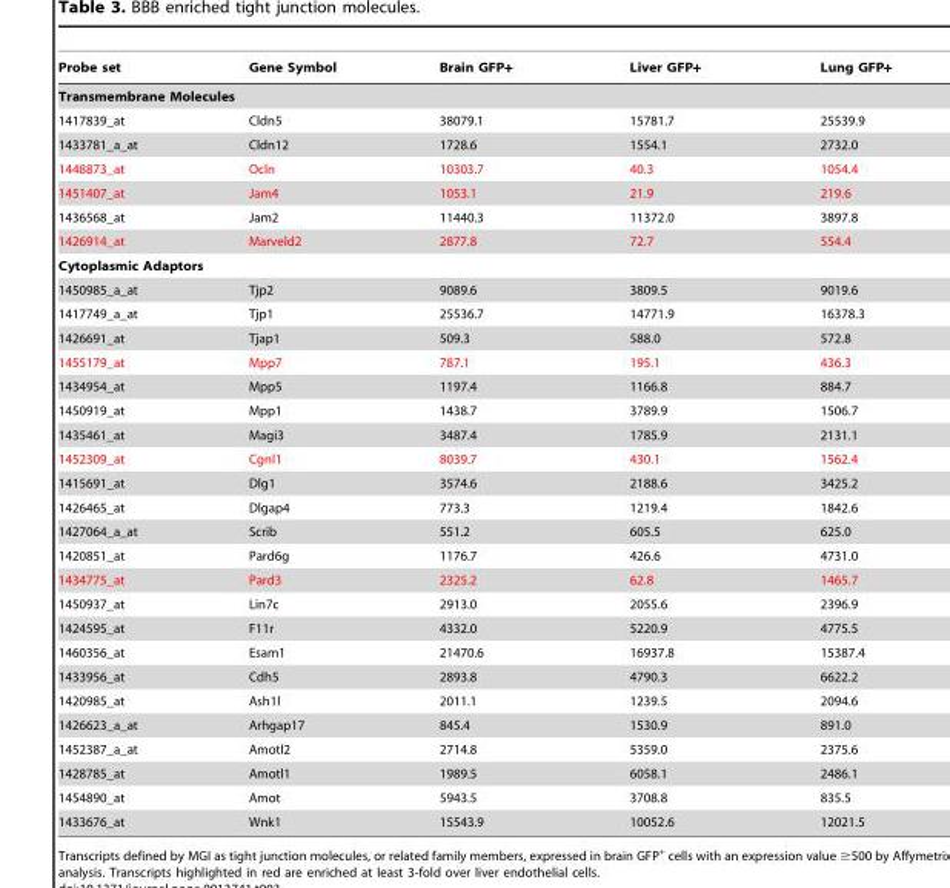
<table><thead><tr><td>Probe set</td><td>Gene Symbol</td><td>Brain GFP+</td><td>Liver GFP+</td><td>Lung GFP+</td></tr></thead><tbody><tr><td colspan="5">Transmembrane Molecules</td></tr><tr><td>1417839_at</td><td>Cldn5</td><td>38079.1</td><td>15781.7</td><td>25539.9</td></tr><tr><td>1433781_a_at</td><td>Cldn12</td><td>1728.6</td><td>1554.1</td><td>2732.0</td></tr><tr><td>1448873_at</td><td>Ocln</td><td>10303.7</td><td>40.3</td><td>1054.4</td></tr><tr><td>1451407_at</td><td>Jam4</td><td>1053.1</td><td>21.9</td><td>219.6</td></tr><tr><td>1436568_at</td><td>Jam2</td><td>11440.3</td><td>11372.0</td><td>3897.8</td></tr><tr><td>1426914_at</td><td>Marveld2</td><td>2877.8</td><td>72.7</td><td>554.4</td></tr><tr><td colspan="5">Cytoplasmic Adaptors</td></tr><tr><td>1450985_a_at</td><td>Tjp2</td><td>9089.6</td><td>3809.5</td><td>9019.6</td></tr><tr><td>1417749_a_at</td><td>Tjp1</td><td>25536.7</td><td>14771.9</td><td>16378.3</td></tr><tr><td>1426691_at</td><td>Tjap1</td><td>509.3</td><td>588.0</td><td>572.8</td></tr><tr><td>1455179_at</td><td>Mpp7</td><td>787.1</td><td>195.1</td><td>436.3</td></tr><tr><td>1434954_at</td><td>Mpp5</td><td>1197.4</td><td>1166.8</td><td>884.7</td></tr><tr><td>1450919_at</td><td>Mpp1</td><td>1438.7</td><td>3789.9</td><td>1506.7</td></tr><tr><td>1435461_at</td><td>Magi3</td><td>3487.4</td><td>1785.9</td><td>2131.1</td></tr><tr><td>1452309_at</td><td>Cgnl1</td><td>8039.7</td><td>430.1</td><td>1562.4</td></tr><tr><td>1415691_at</td><td>Dlg1</td><td>3574.6</td><td>2188.6</td><td>3425.2</td></tr><tr><td>1426465_at</td><td>Dlgap4</td><td>773.3</td><td>1219.4</td><td>1842.6</td></tr><tr><td>1427064_a_at</td><td>Scrib</td><td>551.2</td><td>605.5</td><td>625.0</td></tr><tr><td>1420851_at</td><td>Pard6g</td><td>1176.7</td><td>426.6</td><td>4731.0</td></tr><tr><td>1434775_at</td><td>Pard3</td><td>2325.2</td><td>62.8</td><td>1465.7</td></tr><tr><td>1450937_at</td><td>Lin7c</td><td>2913.0</td><td>2055.6</td><td>2396.9</td></tr><tr><td>1424595_at</td><td>F11r</td><td>4332.0</td><td>5220.9</td><td>4775.5</td></tr><tr><td>1460356_at</td><td>Esam1</td><td>21470.6</td><td>16937.8</td><td>15387.4</td></tr><tr><td>1433956_at</td><td>Cdh5</td><td>2893.8</td><td>4790.3</td><td>6622.2</td></tr><tr><td>1420985_at</td><td>Ash1l</td><td>2011.1</td><td>1239.5</td><td>2094.6</td></tr><tr><td>1426623_a_at</td><td>Arhgap17</td><td>845.4</td><td>1530.9</td><td>891.0</td></tr><tr><td>1452387_a_at</td><td>Amotl2</td><td>2714.8</td><td>5359.0</td><td>2375.6</td></tr><tr><td>1428785_at</td><td>Amotl1</td><td>1989.5</td><td>6058.1</td><td>2486.1</td></tr><tr><td>1454890_at</td><td>Amot</td><td>5943.5</td><td>3708.8</td><td>835.5</td></tr><tr><td>1433676_at</td><td>Wnk1</td><td>15543.9</td><td>10052.6</td><td>12021.5</td></tr></tbody></table>